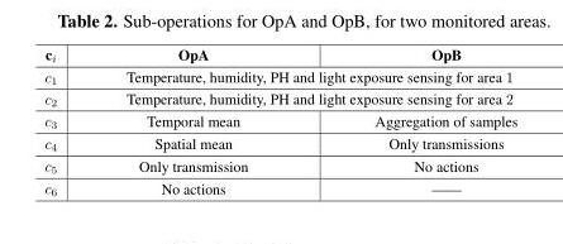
<table><thead><tr><td>c<sub>i</sub></td><td>OpA</td><td>OpB</td></tr></thead><tbody><tr><td>c<sub>1</sub></td><td colspan="2">Temperature, humidity, PH and light exposure sensing for area 1</td></tr><tr><td>c<sub>2</sub></td><td colspan="2">Temperature, humidity, PH and light exposure sensing for area 2</td></tr><tr><td>c<sub>3</sub></td><td>Temporal mean</td><td>Aggregation of samples</td></tr><tr><td>c<sub>4</sub></td><td>Spatial mean</td><td>Only transmissions</td></tr><tr><td>c<sub>5</sub></td><td>Only transmission</td><td>No actions</td></tr><tr><td>c<sub>6</sub></td><td>No actions</td><td>——</td></tr></tbody></table>